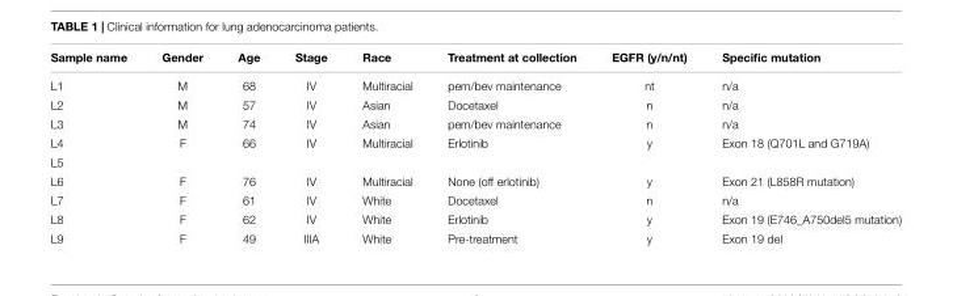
<table><thead><tr><td>Sample name</td><td>Gender</td><td>Age</td><td>Stage</td><td>Race</td><td>Treatment at collection</td><td>EGFR (y/n/nt)</td><td>Specific mutation</td></tr></thead><tbody><tr><td>L1</td><td>M</td><td>68</td><td>IV</td><td>Multiracial</td><td>pem/bev maintenance</td><td>nt</td><td>n/a</td></tr><tr><td>L2</td><td>M</td><td>57</td><td>IV</td><td>Asian</td><td>Docetaxel</td><td>n</td><td>n/a</td></tr><tr><td>L3</td><td>M</td><td>74</td><td>IV</td><td>Asian</td><td>pem/bev maintenance</td><td>n</td><td>n/a</td></tr><tr><td>L4</td><td>F</td><td>66</td><td>IV</td><td>Multiracial</td><td>Erlotinib</td><td>y</td><td>Exon 18 (Q701L and G719A)</td></tr><tr><td colspan="8">L5</td></tr><tr><td>L6</td><td>F</td><td>76</td><td>IV</td><td>Multiracial</td><td>None (off erlotinib)</td><td>y</td><td>Exon 21 (L858R mutation)</td></tr><tr><td>L7</td><td>F</td><td>61</td><td>IV</td><td>White</td><td>Docetaxel</td><td>n</td><td>n/a</td></tr><tr><td>L8</td><td>F</td><td>62</td><td>IV</td><td>White</td><td>Erlotinib</td><td>y</td><td>Exon 19 (E746_A750del5 mutation)</td></tr><tr><td>L9</td><td>F</td><td>49</td><td>IIIA</td><td>White</td><td>Pre-treatment</td><td>y</td><td>Exon 19 del</td></tr></tbody></table>